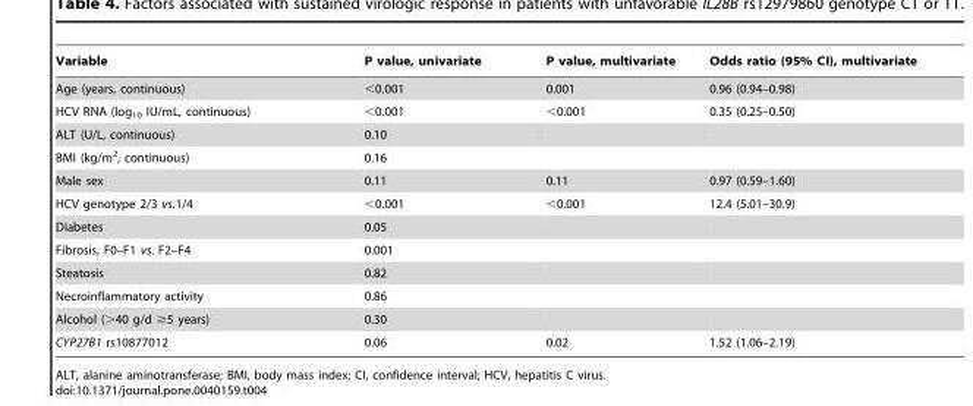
<table><thead><tr><td>Variable</td><td>P value, univariate</td><td>P value, multivariate</td><td>Odds ratio (95% CI), multivariate</td></tr></thead><tbody><tr><td>Age (years, continuous)</td><td>&lt;0.001</td><td>0.001</td><td>0.96 (0.94–0.98)</td></tr><tr><td>HCV RNA (log<sub>10</sub> IU/mL, continuous)</td><td>&lt;0.001</td><td>&lt;0.001</td><td>0.35 (0.25–0.50)</td></tr><tr><td>ALT (U/L, continuous)</td><td>0.10</td><td></td><td></td></tr><tr><td>BMI (kg/m<sup>2</sup>, continuous)</td><td>0.16</td><td></td><td></td></tr><tr><td>Male sex</td><td>0.11</td><td>0.11</td><td>0.97 (0.59–1.60)</td></tr><tr><td>HCV genotype 2/3 vs.1/4</td><td>&lt;0.001</td><td>&lt;0.001</td><td>12.4 (5.01–30.9)</td></tr><tr><td>Diabetes</td><td>0.05</td><td></td><td></td></tr><tr><td>Fibrosis, F0–F1 vs. F2–F4</td><td>0.001</td><td></td><td></td></tr><tr><td>Steatosis</td><td>0.82</td><td></td><td></td></tr><tr><td>Necroinflammatory activity</td><td>0.86</td><td></td><td></td></tr><tr><td>Alcohol (&gt;40 g/d ≥5 years)</td><td>0.30</td><td></td><td></td></tr><tr><td>CYP27B1 rs10877012</td><td>0.06</td><td>0.02</td><td>1.52 (1.06–2.19)</td></tr></tbody></table>